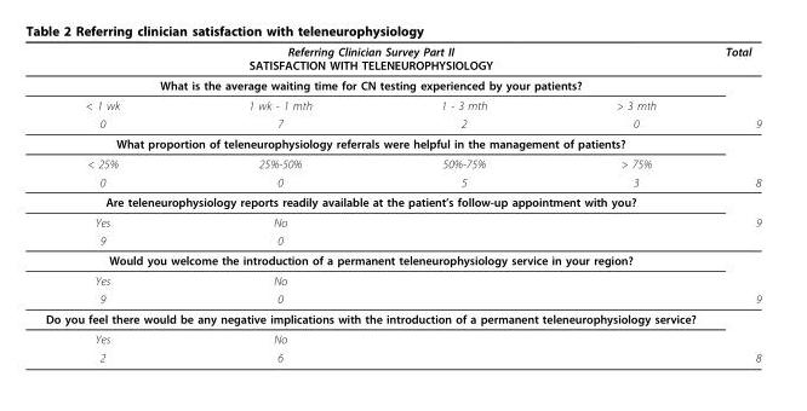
<table><thead><tr><td rowspan="2" colspan="4">Referring Clinician Survey Part II SATISFACTION WITH TELENEUROPHYSIOLOGY What is the average waiting time for CN testing experienced by your patients?</td><td rowspan="3">Total</td></tr><tr></tr><tr><td>&lt; 1 wk</td><td>1 wk - 1 mth</td><td>1 - 3 mth</td><td>&gt; 3 mth</td></tr></thead><tbody><tr><td>0</td><td>7</td><td>2</td><td>0</td><td>9</td></tr><tr><td colspan="5">What proportion of teleneurophysiology referrals were helpful in the management of patients?</td></tr><tr><td>&lt; 25%</td><td>25%-50%</td><td>50%-75%</td><td>&gt; 75%</td><td></td></tr><tr><td>0</td><td>0</td><td>5</td><td>3</td><td>8</td></tr><tr><td colspan="5">Are teleneurophysiology reports readily available at the patient’s follow-up appointment with you?</td></tr><tr><td>Yes</td><td>No</td><td></td><td></td><td>9</td></tr><tr><td>9</td><td>0</td><td></td><td></td><td></td></tr><tr><td colspan="5">Would you welcome the introduction of a permanent teleneurophysiology service in your region?</td></tr><tr><td>Yes</td><td>No</td><td></td><td></td><td></td></tr><tr><td>9</td><td>0</td><td></td><td></td><td>9</td></tr><tr><td colspan="5">Do you feel there would be any negative implications with the introduction of a permanent teleneurophysiology service?</td></tr><tr><td>Yes</td><td>No</td><td></td><td></td><td></td></tr><tr><td>2</td><td>6</td><td></td><td></td><td>8</td></tr></tbody></table>